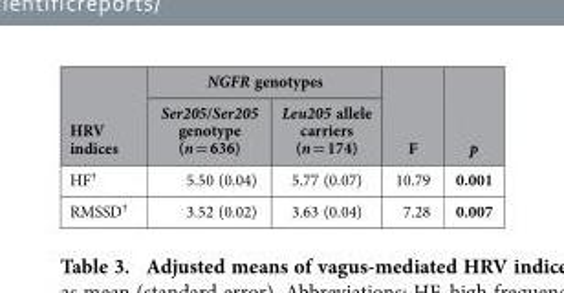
<table><thead><tr><td rowspan="2">HRV indices</td><td colspan="2">NGFR genotypes</td><td rowspan="2">F</td><td rowspan="2">p</td></tr><tr><td>Ser205/Ser205 genotype (n = 636)</td><td>Leu205 allele carriers (n = 174)</td></tr></thead><tbody><tr><td>HF†</td><td>5.50 (0.04)</td><td>5.77 (0.07)</td><td>10.79</td><td>0.001</td></tr><tr><td>RMSSD†</td><td>3.52 (0.02)</td><td>3.63 (0.04)</td><td>7.28</td><td>0.007</td></tr></tbody></table>